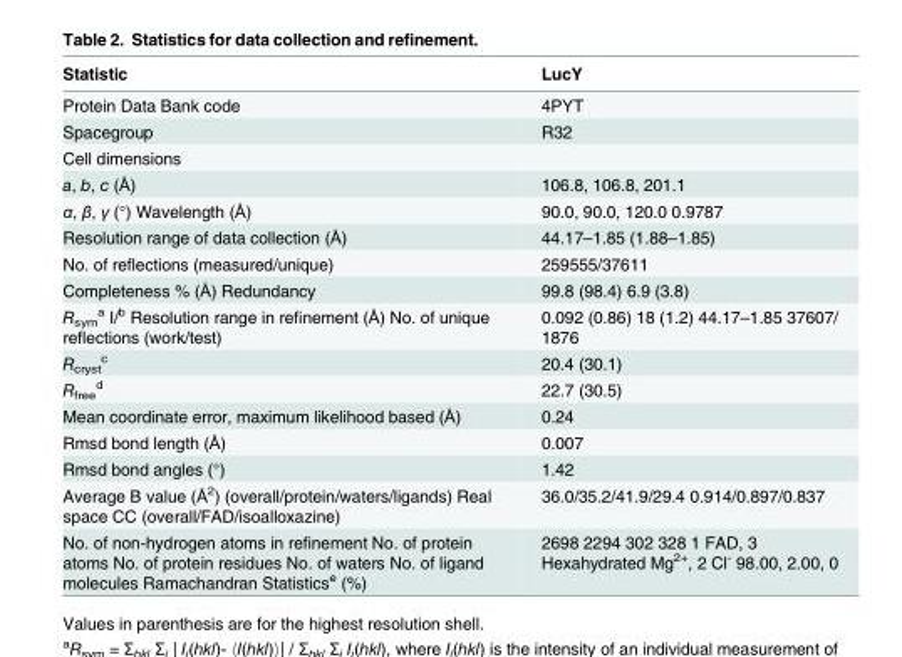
<table><thead><tr><td>Statistic</td><td>LucY</td></tr></thead><tbody><tr><td>Protein Data Bank code</td><td>4PYT</td></tr><tr><td>Spacegroup</td><td>R32</td></tr><tr><td colspan="2">Cell dimensions</td></tr><tr><td>a, b, c (Å)</td><td>106.8, 106.8, 201.1</td></tr><tr><td>α, β, γ (°) Wavelength (Å)</td><td>90.0, 90.0, 120.0 0.9787</td></tr><tr><td>Resolution range of data collection (Å)</td><td>44.17–1.85 (1.88–1.85)</td></tr><tr><td>No. of reflections (measured/unique)</td><td>259555/37611</td></tr><tr><td>Completeness % (Å) Redundancy</td><td>99.8 (98.4) 6.9 (3.8)</td></tr><tr><td>R<sub>sym</sub> <sup>a</sup> I/<sup>b</sup> Resolution range in refinement (Å) No. of unique reflections (work/test)</td><td>0.092 (0.86) 18 (1.2) 44.17–1.85 37607/ 1876</td></tr><tr><td>R<sub>cryst</sub> <sup>c</sup></td><td>20.4 (30.1)</td></tr><tr><td>R<sub>free</sub> <sup>d</sup></td><td>22.7 (30.5)</td></tr><tr><td>Mean coordinate error, maximum likelihood based (Å)</td><td>0.24</td></tr><tr><td>Rmsd bond length (Å)</td><td>0.007</td></tr><tr><td>Rmsd bond angles (°)</td><td>1.42</td></tr><tr><td>Average B value (Å<sup>2</sup>) (overall/protein/waters/ligands) Real space CC (overall/FAD/isoalloxazine)</td><td>36.0/35.2/41.9/29.4 0.914/0.897/0.837</td></tr><tr><td>No. of non-hydrogen atoms in refinement No. of protein atoms No. of protein residues No. of waters No. of ligand molecules Ramachandran Statistics<sup>e</sup> (%)</td><td>2698 2294 302 328 1 FAD, 3 Hexahydrated Mg<sup>2+</sup>, 2 Cl<sup>-</sup> 98.00, 2.00, 0</td></tr></tbody></table>